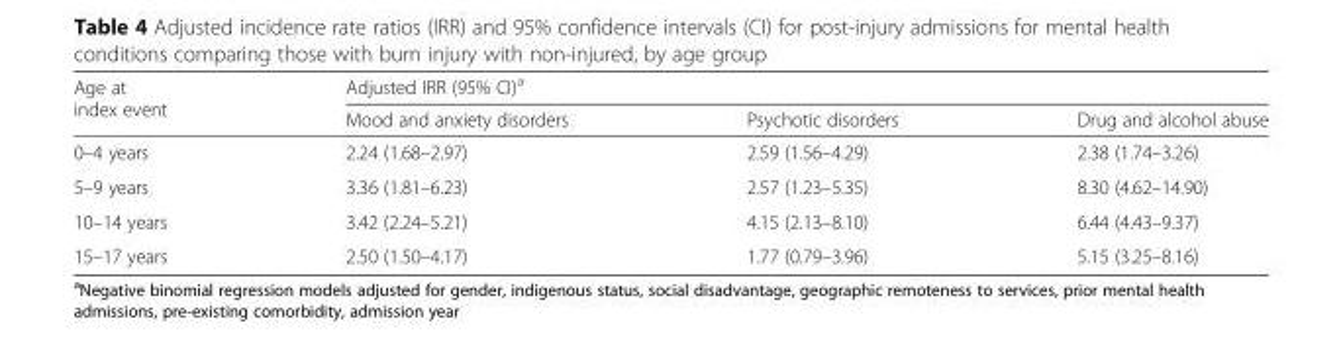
<table><thead><tr><td rowspan="2">Age at index event</td><td colspan="3">Adjusted IRR (95% CI)<sup>a</sup></td></tr><tr><td>Mood and anxiety disorders</td><td>Psychotic disorders</td><td>Drug and alcohol abuse</td></tr></thead><tbody><tr><td>0–4 years</td><td>2.24 (1.68–2.97)</td><td>2.59 (1.56–4.29)</td><td>2.38 (1.74–3.26)</td></tr><tr><td>5–9 years</td><td>3.36 (1.81–6.23)</td><td>2.57 (1.23–5.35)</td><td>8.30 (4.62–14.90)</td></tr><tr><td>10–14 years</td><td>3.42 (2.24–5.21)</td><td>4.15 (2.13–8.10)</td><td>6.44 (4.43–9.37)</td></tr><tr><td>15–17 years</td><td>2.50 (1.50–4.17)</td><td>1.77 (0.79–3.96)</td><td>5.15 (3.25–8.16)</td></tr></tbody></table>